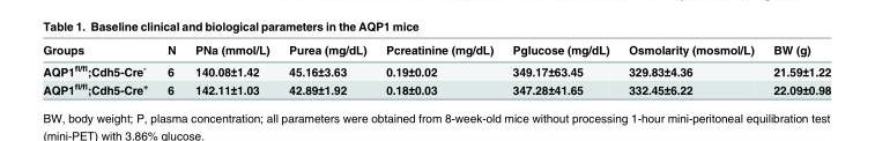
<table><thead><tr><td>Groups</td><td>N</td><td>PNa (mmol/L)</td><td>Purea (mg/dL)</td><td>Pcreatinine (mg/dL)</td><td>Pglucose (mg/dL)</td><td>Osmolarity (mosmol/L)</td><td>BW (g)</td></tr></thead><tbody><tr><td>AQP1<sup>fl/fl</sup>;Cdh5-Cre<sup>-</sup></td><td>6</td><td>140.08±1.42</td><td>45.16±3.63</td><td>0.19±0.02</td><td>349.17±63.45</td><td>329.83±4.36</td><td>21.59±1.22</td></tr><tr><td>AQP1<sup>fl/fl</sup>;Cdh5-Cre<sup>+</sup></td><td>6</td><td>142.11±1.03</td><td>42.89±1.92</td><td>0.18±0.03</td><td>347.28±41.65</td><td>332.45±6.22</td><td>22.09±0.98</td></tr></tbody></table>